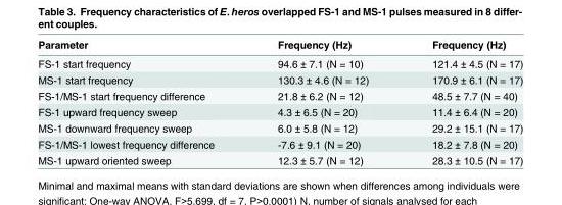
<table><thead><tr><td>Parameter</td><td>Frequency (Hz)</td><td>Frequency (Hz)</td></tr></thead><tbody><tr><td>FS-1 start frequency</td><td>94.6 ± 7.1 (N = 10)</td><td>121.4 ± 4.5 (N = 17)</td></tr><tr><td>MS-1 start frequency</td><td>130.3 ± 4.6 (N = 12)</td><td>170.9 ± 6.1 (N = 17)</td></tr><tr><td>FS-1/MS-1 start frequency difference</td><td>21.8 ± 6.2 (N = 12)</td><td>48.5 ± 7.7 (N = 40)</td></tr><tr><td>FS-1 upward frequency sweep</td><td>4.3 ± 6.5 (N = 20)</td><td>11.4 ± 6.4 (N = 20)</td></tr><tr><td>MS-1 downward frequency sweep</td><td>6.0 ± 5.8 (N = 12)</td><td>29.2 ± 15.1 (N = 17)</td></tr><tr><td>FS-1/MS-1 lowest frequency difference</td><td>-7.6 ± 9.1 (N = 20)</td><td>18.2 ± 7.8 (N = 20)</td></tr><tr><td>MS-1 upward oriented sweep</td><td>12.3 ± 5.7 (N = 12)</td><td>28.3 ± 10.5 (N = 17)</td></tr></tbody></table>